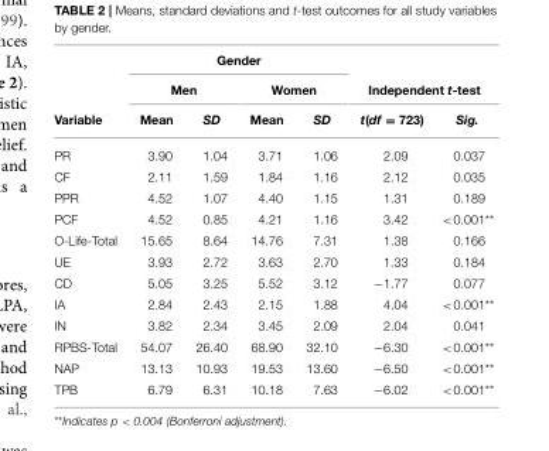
<table><thead><tr><td rowspan="3">Variable</td><td colspan="4">Gender</td><td></td><td></td></tr><tr><td colspan="2">Men</td><td colspan="2">Women</td><td colspan="2">Independent t-test</td></tr><tr><td>Mean</td><td>SD</td><td>Mean</td><td>SD</td><td>t(df = 723)</td><td>Sig.</td></tr></thead><tbody><tr><td>PR</td><td>3.90</td><td>1.04</td><td>3.71</td><td>1.06</td><td>2.09</td><td>0.037</td></tr><tr><td>CF</td><td>2.11</td><td>1.59</td><td>1.84</td><td>1.16</td><td>2.12</td><td>0.035</td></tr><tr><td>PPR</td><td>4.52</td><td>1.07</td><td>4.40</td><td>1.15</td><td>1.31</td><td>0.189</td></tr><tr><td>PCF</td><td>4.52</td><td>0.85</td><td>4.21</td><td>1.16</td><td>3.42</td><td>&lt;0.001**</td></tr><tr><td>O-Life-Total</td><td>15.65</td><td>8.64</td><td>14.76</td><td>7.31</td><td>1.38</td><td>0.166</td></tr><tr><td>UE</td><td>3.93</td><td>2.72</td><td>3.63</td><td>2.70</td><td>1.33</td><td>0.184</td></tr><tr><td>CD</td><td>5.05</td><td>3.25</td><td>5.52</td><td>3.12</td><td>−1.77</td><td>0.077</td></tr><tr><td>IA</td><td>2.84</td><td>2.43</td><td>2.15</td><td>1.88</td><td>4.04</td><td>&lt;0.001**</td></tr><tr><td>IN</td><td>3.82</td><td>2.34</td><td>3.45</td><td>2.09</td><td>2.04</td><td>0.041</td></tr><tr><td>RPBS-Total</td><td>54.07</td><td>26.40</td><td>68.90</td><td>32.10</td><td>−6.30</td><td>&lt;0.001**</td></tr><tr><td>NAP</td><td>13.13</td><td>10.93</td><td>19.53</td><td>13.60</td><td>−6.50</td><td>&lt;0.001**</td></tr><tr><td>TPB</td><td>6.79</td><td>6.31</td><td>10.18</td><td>7.63</td><td>−6.02</td><td>&lt;0.001**</td></tr></tbody></table>